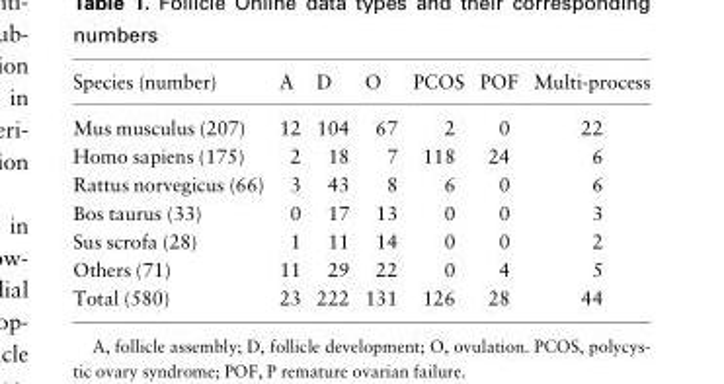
<table><thead><tr><td>Species (number)</td><td>A</td><td>D</td><td>O</td><td>PCOS</td><td>POF</td><td>Multi-process</td></tr></thead><tbody><tr><td>Mus musculus (207)</td><td>12</td><td>104</td><td>67</td><td>2</td><td>0</td><td>22</td></tr><tr><td>Homo sapiens (175)</td><td>2</td><td>18</td><td>7</td><td>118</td><td>24</td><td>6</td></tr><tr><td>Rattus norvegicus (66)</td><td>3</td><td>43</td><td>8</td><td>6</td><td>0</td><td>6</td></tr><tr><td>Bos taurus (33)</td><td>0</td><td>17</td><td>13</td><td>0</td><td>0</td><td>3</td></tr><tr><td>Sus scrofa (28)</td><td>1</td><td>11</td><td>14</td><td>0</td><td>0</td><td>2</td></tr><tr><td>Others (71)</td><td>11</td><td>29</td><td>22</td><td>0</td><td>4</td><td>5</td></tr><tr><td>Total (580)</td><td>23</td><td>222</td><td>131</td><td>126</td><td>28</td><td>44</td></tr></tbody></table>